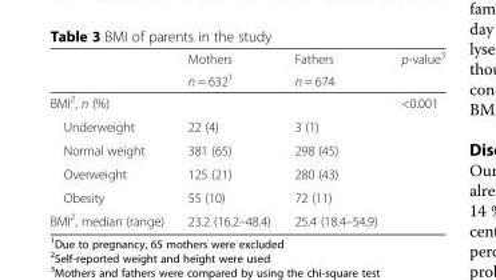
<table><thead><tr><td rowspan="2"></td><td rowspan="2">Mothers n = 632<sup>1</sup></td><td rowspan="2">Fathers n = 674</td><td rowspan="2">p-value<sup>3</sup></td></tr><tr></tr></thead><tbody><tr><td>BMI<sup>2</sup>, n (%)</td><td></td><td></td><td>&lt;0.001</td></tr><tr><td>Underweight</td><td>22 (4)</td><td>3 (1)</td><td></td></tr><tr><td>Normal weight</td><td>381 (65)</td><td>298 (45)</td><td></td></tr><tr><td>Overweight</td><td>125 (21)</td><td>280 (43)</td><td></td></tr><tr><td>Obesity</td><td>55 (10)</td><td>72 (11)</td><td></td></tr><tr><td>BMI<sup>2</sup>, median (range)</td><td>23.2 (16.2–48.4)</td><td>25.4 (18.4–54.9)</td><td></td></tr></tbody></table>